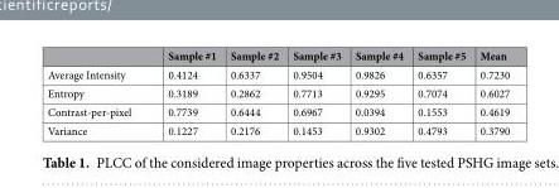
<table><thead><tr><td></td><td>Sample #1</td><td>Sample #2</td><td>Sample #3</td><td>Sample #4</td><td>Sample #5</td><td>Mean</td></tr></thead><tbody><tr><td>Average Intensity</td><td>0.4124</td><td>0.6337</td><td>0.9504</td><td>0.9826</td><td>0.6357</td><td>0.7230</td></tr><tr><td>Entropy</td><td>0.3189</td><td>0.2862</td><td>0.7713</td><td>0.9295</td><td>0.7074</td><td>0.6027</td></tr><tr><td>Contrast-per-pixel</td><td>0.7739</td><td>0.6444</td><td>0.6967</td><td>0.0394</td><td>0.1553</td><td>0.4619</td></tr><tr><td>Variance</td><td>0.1227</td><td>0.2176</td><td>0.1453</td><td>0.9302</td><td>0.4793</td><td>0.3790</td></tr></tbody></table>